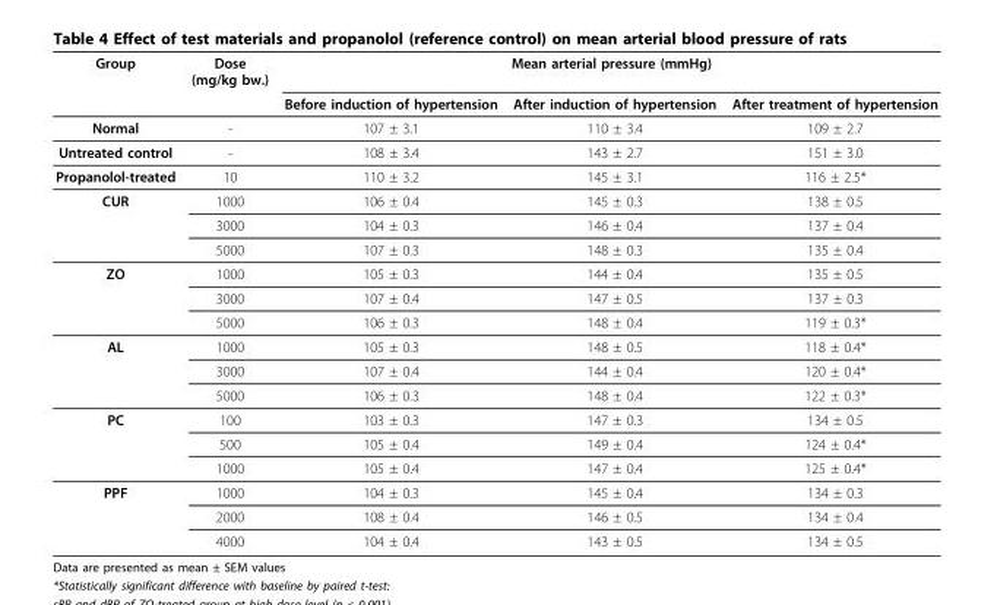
<table><thead><tr><td rowspan="2">Group</td><td rowspan="2">Dose (mg/kg bw.)</td><td colspan="3">Mean arterial pressure (mmHg)</td></tr><tr><td>Before induction of hypertension</td><td>After induction of hypertension</td><td>After treatment of hypertension</td></tr></thead><tbody><tr><td>Normal</td><td>-</td><td>107 ± 3.1</td><td>110 ± 3.4</td><td>109 ± 2.7</td></tr><tr><td>Untreated control</td><td>-</td><td>108 ± 3.4</td><td>143 ± 2.7</td><td>151 ± 3.0</td></tr><tr><td>Propanolol-treated</td><td>10</td><td>110 ± 3.2</td><td>145 ± 3.1</td><td>116 ± 2.5*</td></tr><tr><td rowspan="3">CUR</td><td>1000</td><td>106 ± 0.4</td><td>145 ± 0.3</td><td>138 ± 0.5</td></tr><tr><td>3000</td><td>104 ± 0.3</td><td>146 ± 0.4</td><td>137 ± 0.4</td></tr><tr><td>5000</td><td>107 ± 0.3</td><td>148 ± 0.3</td><td>135 ± 0.4</td></tr><tr><td rowspan="3">ZO</td><td>1000</td><td>105 ± 0.3</td><td>144 ± 0.4</td><td>135 ± 0.5</td></tr><tr><td>3000</td><td>107 ± 0.4</td><td>147 ± 0.5</td><td>137 ± 0.3</td></tr><tr><td>5000</td><td>106 ± 0.3</td><td>148 ± 0.4</td><td>119 ± 0.3*</td></tr><tr><td rowspan="3">AL</td><td>1000</td><td>105 ± 0.3</td><td>148 ± 0.5</td><td>118 ± 0.4*</td></tr><tr><td>3000</td><td>107 ± 0.4</td><td>144 ± 0.4</td><td>120 ± 0.4*</td></tr><tr><td>5000</td><td>106 ± 0.3</td><td>148 ± 0.4</td><td>122 ± 0.3*</td></tr><tr><td rowspan="3">PC</td><td>100</td><td>103 ± 0.3</td><td>147 ± 0.3</td><td>134 ± 0.5</td></tr><tr><td>500</td><td>105 ± 0.4</td><td>149 ± 0.4</td><td>124 ± 0.4*</td></tr><tr><td>1000</td><td>105 ± 0.4</td><td>147 ± 0.4</td><td>125 ± 0.4*</td></tr><tr><td rowspan="3">PPF</td><td>1000</td><td>104 ± 0.3</td><td>145 ± 0.4</td><td>134 ± 0.3</td></tr><tr><td>2000</td><td>108 ± 0.4</td><td>146 ± 0.5</td><td>134 ± 0.4</td></tr><tr><td>4000</td><td>104 ± 0.4</td><td>143 ± 0.5</td><td>134 ± 0.5</td></tr></tbody></table>